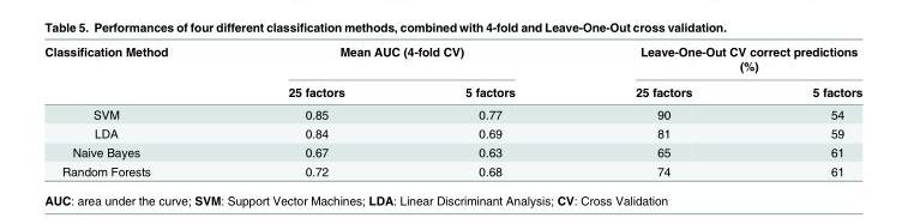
<table><thead><tr><td rowspan="2">Classification Method</td><td colspan="2">Mean AUC (4-fold CV)</td><td colspan="2">Leave-One-Out CV correct predictions (%)</td></tr><tr><td>25 factors</td><td>5 factors</td><td>25 factors</td><td>5 factors</td></tr></thead><tbody><tr><td>SVM</td><td>0.85</td><td>0.77</td><td>90</td><td>54</td></tr><tr><td>LDA</td><td>0.84</td><td>0.69</td><td>81</td><td>59</td></tr><tr><td>Naive Bayes</td><td>0.67</td><td>0.63</td><td>65</td><td>61</td></tr><tr><td>Random Forests</td><td>0.72</td><td>0.68</td><td>74</td><td>61</td></tr></tbody></table>